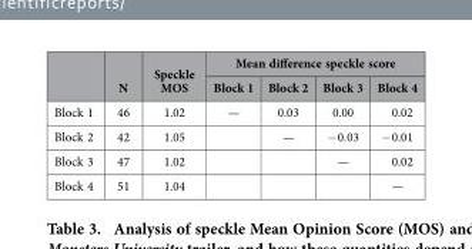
<table><thead><tr><td rowspan="2"></td><td rowspan="2">N</td><td rowspan="2">Speckle MOS</td><td colspan="4">Mean difference speckle score</td></tr><tr><td>Block 1</td><td>Block 2</td><td>Block 3</td><td>Block 4</td></tr></thead><tbody><tr><td>Block 1</td><td>46</td><td>1.02</td><td>—</td><td>0.03</td><td>0.00</td><td>0.02</td></tr><tr><td>Block 2</td><td>42</td><td>1.05</td><td></td><td>—</td><td>− 0.03</td><td>− 0.01</td></tr><tr><td>Block 3</td><td>47</td><td>1.02</td><td></td><td></td><td>—</td><td>0.02</td></tr><tr><td>Block 4</td><td>51</td><td>1.04</td><td></td><td></td><td></td><td>—</td></tr></tbody></table>